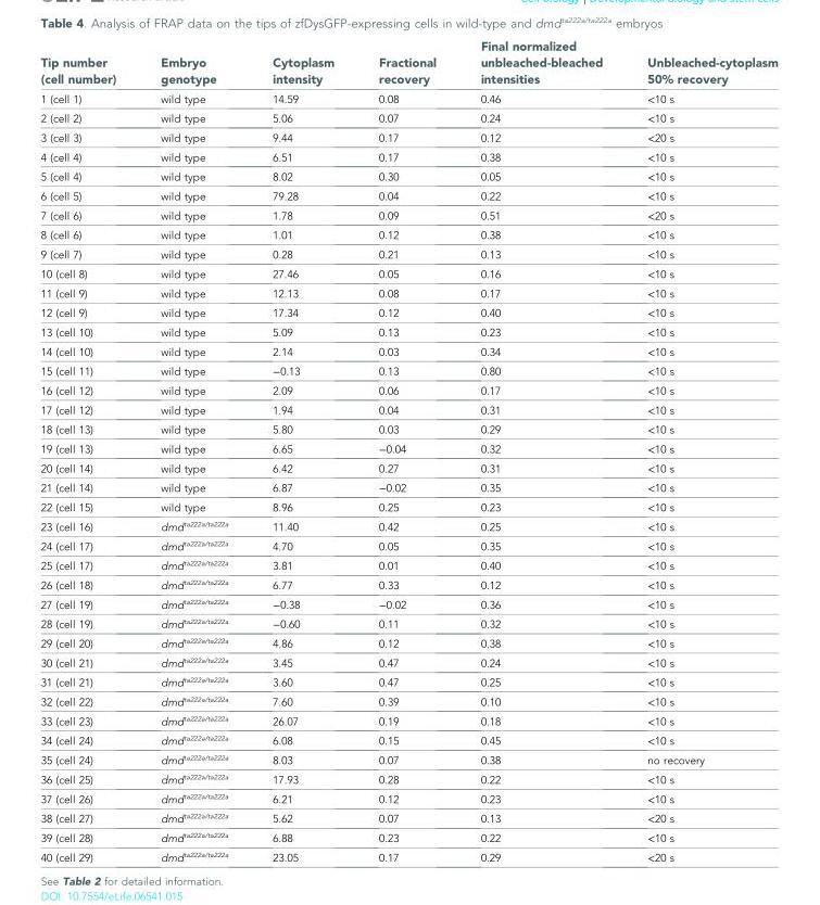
<table><thead><tr><td>Tip number (cell number)</td><td>Embryo genotype</td><td>Cytoplasm intensity</td><td>Fractional recovery</td><td>Final normalized unbleached-bleached intensities</td><td>Unbleached-cytoplasm 50% recovery</td></tr></thead><tbody><tr><td>1 (cell 1)</td><td>wild type</td><td>14.59</td><td>0.08</td><td>0.46</td><td>&lt;10 s</td></tr><tr><td>2 (cell 2)</td><td>wild type</td><td>5.06</td><td>0.07</td><td>0.24</td><td>&lt;10 s</td></tr><tr><td>3 (cell 3)</td><td>wild type</td><td>9.44</td><td>0.17</td><td>0.12</td><td>&lt;20 s</td></tr><tr><td>4 (cell 4)</td><td>wild type</td><td>6.51</td><td>0.17</td><td>0.38</td><td>&lt;10 s</td></tr><tr><td>5 (cell 4)</td><td>wild type</td><td>8.02</td><td>0.30</td><td>0.05</td><td>&lt;10 s</td></tr><tr><td>6 (cell 5)</td><td>wild type</td><td>79.28</td><td>0.04</td><td>0.22</td><td>&lt;10 s</td></tr><tr><td>7 (cell 6)</td><td>wild type</td><td>1.78</td><td>0.09</td><td>0.51</td><td>&lt;20 s</td></tr><tr><td>8 (cell 6)</td><td>wild type</td><td>1.01</td><td>0.12</td><td>0.38</td><td>&lt;10 s</td></tr><tr><td>9 (cell 7)</td><td>wild type</td><td>0.28</td><td>0.21</td><td>0.13</td><td>&lt;10 s</td></tr><tr><td>10 (cell 8)</td><td>wild type</td><td>27.46</td><td>0.05</td><td>0.16</td><td>&lt;10 s</td></tr><tr><td>11 (cell 9)</td><td>wild type</td><td>12.13</td><td>0.08</td><td>0.17</td><td>&lt;10 s</td></tr><tr><td>12 (cell 9)</td><td>wild type</td><td>17.34</td><td>0.12</td><td>0.40</td><td>&lt;10 s</td></tr><tr><td>13 (cell 10)</td><td>wild type</td><td>5.09</td><td>0.13</td><td>0.23</td><td>&lt;10 s</td></tr><tr><td>14 (cell 10)</td><td>wild type</td><td>2.14</td><td>0.03</td><td>0.34</td><td>&lt;10 s</td></tr><tr><td>15 (cell 11)</td><td>wild type</td><td>−0.13</td><td>0.13</td><td>0.80</td><td>&lt;10 s</td></tr><tr><td>16 (cell 12)</td><td>wild type</td><td>2.09</td><td>0.06</td><td>0.17</td><td>&lt;10 s</td></tr><tr><td>17 (cell 12)</td><td>wild type</td><td>1.94</td><td>0.04</td><td>0.31</td><td>&lt;10 s</td></tr><tr><td>18 (cell 13)</td><td>wild type</td><td>5.80</td><td>0.03</td><td>0.29</td><td>&lt;10 s</td></tr><tr><td>19 (cell 13)</td><td>wild type</td><td>6.65</td><td>−0.04</td><td>0.32</td><td>&lt;10 s</td></tr><tr><td>20 (cell 14)</td><td>wild type</td><td>6.42</td><td>0.27</td><td>0.31</td><td>&lt;10 s</td></tr><tr><td>21 (cell 14)</td><td>wild type</td><td>6.87</td><td>−0.02</td><td>0.35</td><td>&lt;10 s</td></tr><tr><td>22 (cell 15)</td><td>wild type</td><td>8.96</td><td>0.25</td><td>0.23</td><td>&lt;10 s</td></tr><tr><td>23 (cell 16)</td><td>dmd<sup>ta222a/ta222a</sup></td><td>11.40</td><td>0.42</td><td>0.25</td><td>&lt;10 s</td></tr><tr><td>24 (cell 17)</td><td>dmd<sup>ta222a/ta222a</sup></td><td>4.70</td><td>0.05</td><td>0.35</td><td>&lt;10 s</td></tr><tr><td>25 (cell 17)</td><td>dmd<sup>ta222a/ta222a</sup></td><td>3.81</td><td>0.01</td><td>0.40</td><td>&lt;10 s</td></tr><tr><td>26 (cell 18)</td><td>dmd<sup>ta222a/ta222a</sup></td><td>6.77</td><td>0.33</td><td>0.12</td><td>&lt;10 s</td></tr><tr><td>27 (cell 19)</td><td>dmd<sup>ta222a/ta222a</sup></td><td>−0.38</td><td>−0.02</td><td>0.36</td><td>&lt;10 s</td></tr><tr><td>28 (cell 19)</td><td>dmd<sup>ta222a/ta222a</sup></td><td>−0.60</td><td>0.11</td><td>0.32</td><td>&lt;10 s</td></tr><tr><td>29 (cell 20)</td><td>dmd<sup>ta222a/ta222a</sup></td><td>4.86</td><td>0.12</td><td>0.38</td><td>&lt;10 s</td></tr><tr><td>30 (cell 21)</td><td>dmd<sup>ta222a/ta222a</sup></td><td>3.45</td><td>0.47</td><td>0.24</td><td>&lt;10 s</td></tr><tr><td>31 (cell 21)</td><td>dmd<sup>ta222a/ta222a</sup></td><td>3.60</td><td>0.47</td><td>0.25</td><td>&lt;10 s</td></tr><tr><td>32 (cell 22)</td><td>dmd<sup>ta222a/ta222a</sup></td><td>7.60</td><td>0.39</td><td>0.10</td><td>&lt;10 s</td></tr><tr><td>33 (cell 23)</td><td>dmd<sup>ta222a/ta222a</sup></td><td>26.07</td><td>0.19</td><td>0.18</td><td>&lt;10 s</td></tr><tr><td>34 (cell 24)</td><td>dmd<sup>ta222a/ta222a</sup></td><td>6.08</td><td>0.15</td><td>0.45</td><td>&lt;10 s</td></tr><tr><td>35 (cell 24)</td><td>dmd<sup>ta222a/ta222a</sup></td><td>8.03</td><td>0.07</td><td>0.38</td><td>no recovery</td></tr><tr><td>36 (cell 25)</td><td>dmd<sup>ta222a/ta222a</sup></td><td>17.93</td><td>0.28</td><td>0.22</td><td>&lt;10 s</td></tr><tr><td>37 (cell 26)</td><td>dmd<sup>ta222a/ta222a</sup></td><td>6.21</td><td>0.12</td><td>0.23</td><td>&lt;10 s</td></tr><tr><td>38 (cell 27)</td><td>dmd<sup>ta222a/ta222a</sup></td><td>5.62</td><td>0.07</td><td>0.13</td><td>&lt;20 s</td></tr><tr><td>39 (cell 28)</td><td>dmd<sup>ta222a/ta222a</sup></td><td>6.88</td><td>0.23</td><td>0.22</td><td>&lt;10 s</td></tr><tr><td>40 (cell 29)</td><td>dmd<sup>ta222a/ta222a</sup></td><td>23.05</td><td>0.17</td><td>0.29</td><td>&lt;20 s</td></tr></tbody></table>